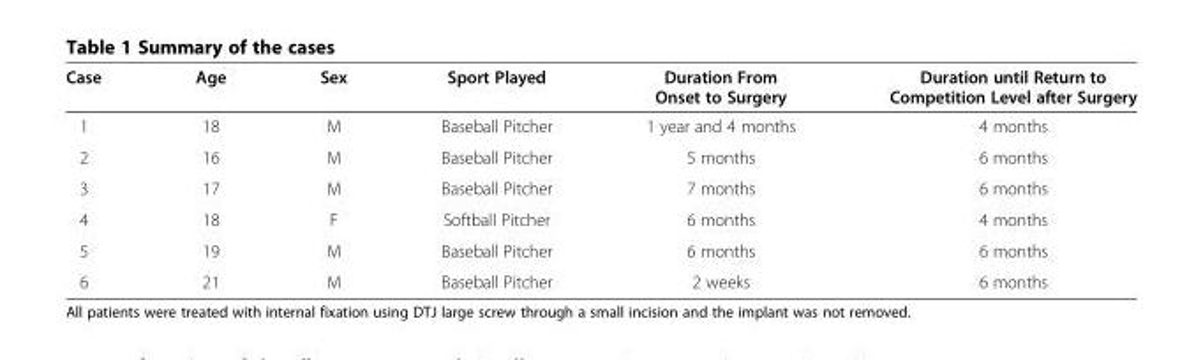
<table><thead><tr><td>Case</td><td>Age</td><td>Sex</td><td>Sport Played</td><td>Duration From Onset to Surgery</td><td>Duration until Return to Competition Level after Surgery</td></tr></thead><tbody><tr><td>1</td><td>18</td><td>M</td><td>Baseball Pitcher</td><td>1 year and 4 months</td><td>4 months</td></tr><tr><td>2</td><td>16</td><td>M</td><td>Baseball Pitcher</td><td>5 months</td><td>6 months</td></tr><tr><td>3</td><td>17</td><td>M</td><td>Baseball Pitcher</td><td>7 months</td><td>6 months</td></tr><tr><td>4</td><td>18</td><td>F</td><td>Softball Pitcher</td><td>6 months</td><td>4 months</td></tr><tr><td>5</td><td>19</td><td>M</td><td>Baseball Pitcher</td><td>6 months</td><td>6 months</td></tr><tr><td>6</td><td>21</td><td>M</td><td>Baseball Pitcher</td><td>2 weeks</td><td>6 months</td></tr></tbody></table>